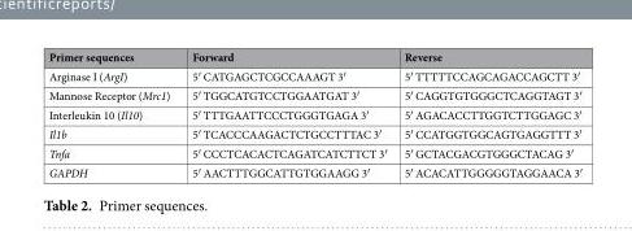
<table><thead><tr><td>Primer sequences</td><td>Forward</td><td>Reverse</td></tr></thead><tbody><tr><td>Arginase I (ArgI)</td><td>5′ CATGAGCTCGCCAAAGT 3′</td><td>5′ TTTTTCCAGCAGACCAGCTT 3′</td></tr><tr><td>Mannose Receptor (Mrc1)</td><td>5′ TGGCATGTCCTGGAATGAT 3′</td><td>5′ CAGGTGTGGGCTCAGGTAGT 3′</td></tr><tr><td>Interleukin 10 (Il10)</td><td>5′ TTTGAATTCCCTGGGTGAGA 3′</td><td>5′ AGACACCTTGGTCTTGGAGC 3′</td></tr><tr><td>Il1b</td><td>5′ TCACCCAAGACTCTGCCTTTAC 3′</td><td>5′ CCATGGTGGCAGTGAGGTTT 3′</td></tr><tr><td>Tnfa</td><td>5′ CCCTCACACTCAGATCATCTTCT 3′</td><td>5′ GCTACGACGTGGGCTACAG 3′</td></tr><tr><td>GAPDH</td><td>5′ AACTTTGGCATTGTGGAAGG 3′</td><td>5′ ACACATTGGGGGTAGGAACA 3′</td></tr></tbody></table>